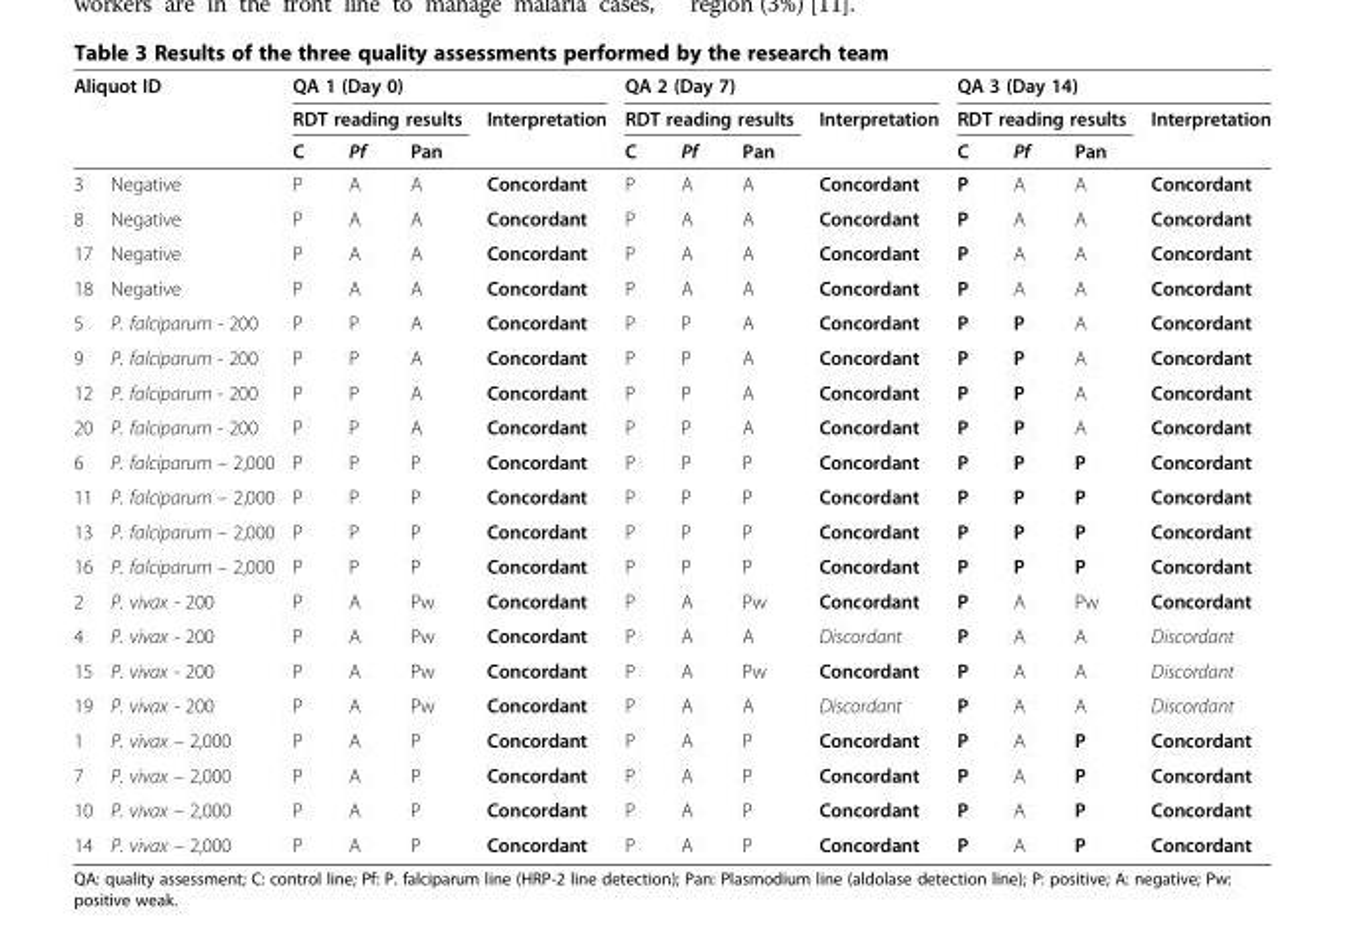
<table><thead><tr><td rowspan="3" colspan="2">Aliquot ID</td><td colspan="4">QA 1 (Day 0)</td><td colspan="4">QA 2 (Day 7)</td><td colspan="4">QA 3 (Day 14)</td></tr><tr><td colspan="3">RDT reading results</td><td rowspan="3">Interpretation Concordant</td><td colspan="3">RDT reading results</td><td rowspan="3">Interpretation Concordant</td><td colspan="3">RDT reading results</td><td rowspan="3">Interpretation Concordant</td></tr><tr><td rowspan="2">C P</td><td rowspan="2">Pf A</td><td rowspan="2">Pan A</td><td rowspan="2">C P</td><td rowspan="2">Pf A</td><td rowspan="2">Pan A</td><td rowspan="2">C P</td><td rowspan="2">Pf A</td><td rowspan="2">Pan A</td></tr><tr><td>3</td><td>Negative</td></tr></thead><tbody><tr><td>8</td><td>Negative</td><td>P</td><td>A</td><td>A</td><td>Concordant</td><td>P</td><td>A</td><td>A</td><td>Concordant</td><td>P</td><td>A</td><td>A</td><td>Concordant</td></tr><tr><td>17</td><td>Negative</td><td>P</td><td>A</td><td>A</td><td>Concordant</td><td>P</td><td>A</td><td>A</td><td>Concordant</td><td>P</td><td>A</td><td>A</td><td>Concordant</td></tr><tr><td>18</td><td>Negative</td><td>P</td><td>A</td><td>A</td><td>Concordant</td><td>P</td><td>A</td><td>A</td><td>Concordant</td><td>P</td><td>A</td><td>A</td><td>Concordant</td></tr><tr><td>5</td><td>P. falciparum - 200</td><td>P</td><td>P</td><td>A</td><td>Concordant</td><td>P</td><td>P</td><td>A</td><td>Concordant</td><td>P</td><td>P</td><td>A</td><td>Concordant</td></tr><tr><td>9</td><td>P. falciparum - 200</td><td>P</td><td>P</td><td>A</td><td>Concordant</td><td>P</td><td>P</td><td>A</td><td>Concordant</td><td>P</td><td>P</td><td>A</td><td>Concordant</td></tr><tr><td>12</td><td>P. falciparum - 200</td><td>P</td><td>P</td><td>A</td><td>Concordant</td><td>P</td><td>P</td><td>A</td><td>Concordant</td><td>P</td><td>P</td><td>A</td><td>Concordant</td></tr><tr><td>20</td><td>P. falciparum - 200</td><td>P</td><td>P</td><td>A</td><td>Concordant</td><td>P</td><td>P</td><td>A</td><td>Concordant</td><td>P</td><td>P</td><td>A</td><td>Concordant</td></tr><tr><td>6</td><td>P. falciparum – 2,000</td><td>P</td><td>P</td><td>P</td><td>Concordant</td><td>P</td><td>P</td><td>P</td><td>Concordant</td><td>P</td><td>P</td><td>P</td><td>Concordant</td></tr><tr><td>11</td><td>P. falciparum – 2,000</td><td>P</td><td>P</td><td>P</td><td>Concordant</td><td>P</td><td>P</td><td>P</td><td>Concordant</td><td>P</td><td>P</td><td>P</td><td>Concordant</td></tr><tr><td>13</td><td>P. falciparum – 2,000</td><td>P</td><td>P</td><td>P</td><td>Concordant</td><td>P</td><td>P</td><td>P</td><td>Concordant</td><td>P</td><td>P</td><td>P</td><td>Concordant</td></tr><tr><td>16</td><td>P. falciparum – 2,000</td><td>P</td><td>P</td><td>P</td><td>Concordant</td><td>P</td><td>P</td><td>P</td><td>Concordant</td><td>P</td><td>P</td><td>P</td><td>Concordant</td></tr><tr><td>2</td><td>P. vivax - 200</td><td>P</td><td>A</td><td>Pw</td><td>Concordant</td><td>P</td><td>A</td><td>Pw</td><td>Concordant</td><td>P</td><td>A</td><td>Pw</td><td>Concordant</td></tr><tr><td>4</td><td>P. vivax - 200</td><td>P</td><td>A</td><td>Pw</td><td>Concordant</td><td>P</td><td>A</td><td>A</td><td>Discordant</td><td>P</td><td>A</td><td>A</td><td>Discordant</td></tr><tr><td>15</td><td>P. vivax - 200</td><td>P</td><td>A</td><td>Pw</td><td>Concordant</td><td>P</td><td>A</td><td>Pw</td><td>Concordant</td><td>P</td><td>A</td><td>A</td><td>Discordant</td></tr><tr><td>19</td><td>P. vivax - 200</td><td>P</td><td>A</td><td>Pw</td><td>Concordant</td><td>P</td><td>A</td><td>A</td><td>Discordant</td><td>P</td><td>A</td><td>A</td><td>Discordant</td></tr><tr><td>1</td><td>P. vivax – 2,000</td><td>P</td><td>A</td><td>P</td><td>Concordant</td><td>P</td><td>A</td><td>P</td><td>Concordant</td><td>P</td><td>A</td><td>P</td><td>Concordant</td></tr><tr><td>7</td><td>P. vivax – 2,000</td><td>P</td><td>A</td><td>P</td><td>Concordant</td><td>P</td><td>A</td><td>P</td><td>Concordant</td><td>P</td><td>A</td><td>P</td><td>Concordant</td></tr><tr><td>10</td><td>P. vivax – 2,000</td><td>P</td><td>A</td><td>P</td><td>Concordant</td><td>P</td><td>A</td><td>P</td><td>Concordant</td><td>P</td><td>A</td><td>P</td><td>Concordant</td></tr><tr><td>14</td><td>P. vivax – 2,000</td><td>P</td><td>A</td><td>P</td><td>Concordant</td><td>P</td><td>A</td><td>P</td><td>Concordant</td><td>P</td><td>A</td><td>P</td><td>Concordant</td></tr></tbody></table>